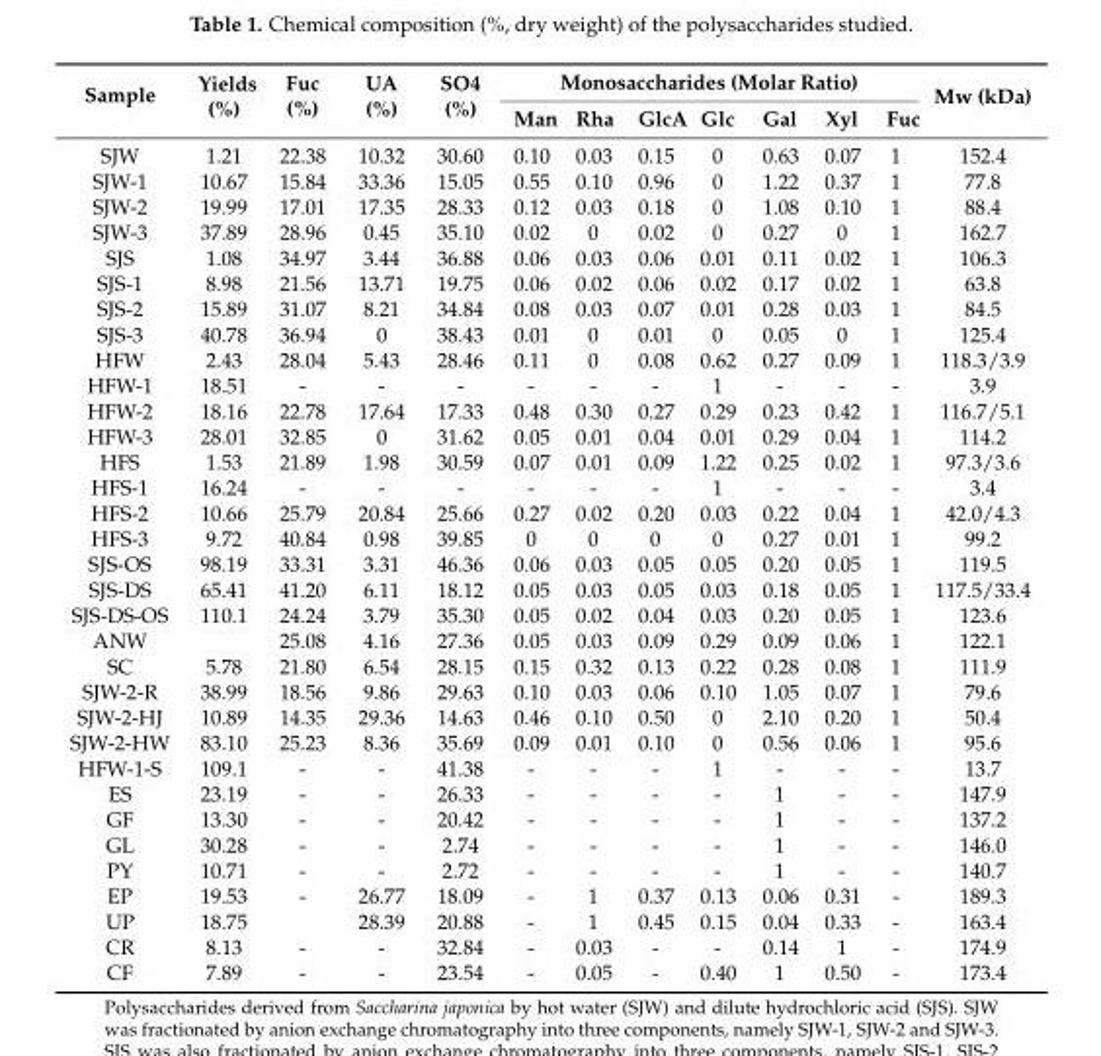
<table><thead><tr><td rowspan="2">Sample</td><td rowspan="2">Yields (%)</td><td rowspan="2">Fuc (%)</td><td rowspan="2">UA (%)</td><td rowspan="2">SO4 (%)</td><td colspan="7">Monosaccharides (Molar Ratio)</td><td rowspan="2">Mw (kDa)</td></tr><tr><td>Man</td><td>Rha</td><td>GlcA</td><td>Glc</td><td>Gal</td><td>Xyl</td><td>Fuc</td></tr></thead><tbody><tr><td>SJW</td><td>1.21</td><td>22.38</td><td>10.32</td><td>30.60</td><td>0.10</td><td>0.03</td><td>0.15</td><td>0</td><td>0.63</td><td>0.07</td><td>1</td><td>152.4</td></tr><tr><td>SJW-1</td><td>10.67</td><td>15.84</td><td>33.36</td><td>15.05</td><td>0.55</td><td>0.10</td><td>0.96</td><td>0</td><td>1.22</td><td>0.37</td><td>1</td><td>77.8</td></tr><tr><td>SJW-2</td><td>19.99</td><td>17.01</td><td>17.35</td><td>28.33</td><td>0.12</td><td>0.03</td><td>0.18</td><td>0</td><td>1.08</td><td>0.10</td><td>1</td><td>88.4</td></tr><tr><td>SJW-3</td><td>37.89</td><td>28.96</td><td>0.45</td><td>35.10</td><td>0.02</td><td>0</td><td>0.02</td><td>0</td><td>0.27</td><td>0</td><td>1</td><td>162.7</td></tr><tr><td>SJS</td><td>1.08</td><td>34.97</td><td>3.44</td><td>36.88</td><td>0.06</td><td>0.03</td><td>0.06</td><td>0.01</td><td>0.11</td><td>0.02</td><td>1</td><td>106.3</td></tr><tr><td>SJS-1</td><td>8.98</td><td>21.56</td><td>13.71</td><td>19.75</td><td>0.06</td><td>0.02</td><td>0.06</td><td>0.02</td><td>0.17</td><td>0.02</td><td>1</td><td>63.8</td></tr><tr><td>SJS-2</td><td>15.89</td><td>31.07</td><td>8.21</td><td>34.84</td><td>0.08</td><td>0.03</td><td>0.07</td><td>0.01</td><td>0.28</td><td>0.03</td><td>1</td><td>84.5</td></tr><tr><td>SJS-3</td><td>40.78</td><td>36.94</td><td>0</td><td>38.43</td><td>0.01</td><td>0</td><td>0.01</td><td>0</td><td>0.05</td><td>0</td><td>1</td><td>125.4</td></tr><tr><td>HFW</td><td>2.43</td><td>28.04</td><td>5.43</td><td>28.46</td><td>0.11</td><td>0</td><td>0.08</td><td>0.62</td><td>0.27</td><td>0.09</td><td>1</td><td>118.3/3.9</td></tr><tr><td>HFW-1</td><td>18.51</td><td>-</td><td>-</td><td>-</td><td>-</td><td>-</td><td>-</td><td>1</td><td>-</td><td>-</td><td>-</td><td>3.9</td></tr><tr><td>HFW-2</td><td>18.16</td><td>22.78</td><td>17.64</td><td>17.33</td><td>0.48</td><td>0.30</td><td>0.27</td><td>0.29</td><td>0.23</td><td>0.42</td><td>1</td><td>116.7/5.1</td></tr><tr><td>HFW-3</td><td>28.01</td><td>32.85</td><td>0</td><td>31.62</td><td>0.05</td><td>0.01</td><td>0.04</td><td>0.01</td><td>0.29</td><td>0.04</td><td>1</td><td>114.2</td></tr><tr><td>HFS</td><td>1.53</td><td>21.89</td><td>1.98</td><td>30.59</td><td>0.07</td><td>0.01</td><td>0.09</td><td>1.22</td><td>0.25</td><td>0.02</td><td>1</td><td>97.3/3.6</td></tr><tr><td>HFS-1</td><td>16.24</td><td>-</td><td>-</td><td>-</td><td>-</td><td>-</td><td>-</td><td>1</td><td>-</td><td>-</td><td>-</td><td>3.4</td></tr><tr><td>HFS-2</td><td>10.66</td><td>25.79</td><td>20.84</td><td>25.66</td><td>0.27</td><td>0.02</td><td>0.20</td><td>0.03</td><td>0.22</td><td>0.04</td><td>1</td><td>42.0/4.3</td></tr><tr><td>HFS-3</td><td>9.72</td><td>40.84</td><td>0.98</td><td>39.85</td><td>0</td><td>0</td><td>0</td><td>0</td><td>0.27</td><td>0.01</td><td>1</td><td>99.2</td></tr><tr><td>SJS-OS</td><td>98.19</td><td>33.31</td><td>3.31</td><td>46.36</td><td>0.06</td><td>0.03</td><td>0.05</td><td>0.05</td><td>0.20</td><td>0.05</td><td>1</td><td>119.5</td></tr><tr><td>SJS-DS</td><td>65.41</td><td>41.20</td><td>6.11</td><td>18.12</td><td>0.05</td><td>0.03</td><td>0.05</td><td>0.03</td><td>0.18</td><td>0.05</td><td>1</td><td>117.5/33.4</td></tr><tr><td>SJS-DS-OS</td><td>110.1</td><td>24.24</td><td>3.79</td><td>35.30</td><td>0.05</td><td>0.02</td><td>0.04</td><td>0.03</td><td>0.20</td><td>0.05</td><td>1</td><td>123.6</td></tr><tr><td>ANW</td><td></td><td>25.08</td><td>4.16</td><td>27.36</td><td>0.05</td><td>0.03</td><td>0.09</td><td>0.29</td><td>0.09</td><td>0.06</td><td>1</td><td>122.1</td></tr><tr><td>SC</td><td>5.78</td><td>21.80</td><td>6.54</td><td>28.15</td><td>0.15</td><td>0.32</td><td>0.13</td><td>0.22</td><td>0.28</td><td>0.08</td><td>1</td><td>111.9</td></tr><tr><td>SJW-2-R</td><td>38.99</td><td>18.56</td><td>9.86</td><td>29.63</td><td>0.10</td><td>0.03</td><td>0.06</td><td>0.10</td><td>1.05</td><td>0.07</td><td>1</td><td>79.6</td></tr><tr><td>SJW-2-HJ</td><td>10.89</td><td>14.35</td><td>29.36</td><td>14.63</td><td>0.46</td><td>0.10</td><td>0.50</td><td>0</td><td>2.10</td><td>0.20</td><td>1</td><td>50.4</td></tr><tr><td>SJW-2-HW</td><td>83.10</td><td>25.23</td><td>8.36</td><td>35.69</td><td>0.09</td><td>0.01</td><td>0.10</td><td>0</td><td>0.56</td><td>0.06</td><td>1</td><td>95.6</td></tr><tr><td>HFW-1-S</td><td>109.1</td><td>-</td><td>-</td><td>41.38</td><td>-</td><td>-</td><td>-</td><td>1</td><td>-</td><td>-</td><td>-</td><td>13.7</td></tr><tr><td>ES</td><td>23.19</td><td>-</td><td>-</td><td>26.33</td><td>-</td><td>-</td><td>-</td><td>-</td><td>1</td><td>-</td><td>-</td><td>147.9</td></tr><tr><td>GF</td><td>13.30</td><td>-</td><td>-</td><td>20.42</td><td>-</td><td>-</td><td>-</td><td>-</td><td>1</td><td>-</td><td>-</td><td>137.2</td></tr><tr><td>GL</td><td>30.28</td><td>-</td><td>-</td><td>2.74</td><td>-</td><td>-</td><td>-</td><td>-</td><td>1</td><td>-</td><td>-</td><td>146.0</td></tr><tr><td>PY</td><td>10.71</td><td>-</td><td>-</td><td>2.72</td><td>-</td><td>-</td><td>-</td><td>-</td><td>1</td><td>-</td><td>-</td><td>140.7</td></tr><tr><td>EP</td><td>19.53</td><td>-</td><td>26.77</td><td>18.09</td><td>-</td><td>1</td><td>0.37</td><td>0.13</td><td>0.06</td><td>0.31</td><td>-</td><td>189.3</td></tr><tr><td>UP</td><td>18.75</td><td></td><td>28.39</td><td>20.88</td><td>-</td><td>1</td><td>0.45</td><td>0.15</td><td>0.04</td><td>0.33</td><td>-</td><td>163.4</td></tr><tr><td>CR</td><td>8.13</td><td>-</td><td>-</td><td>32.84</td><td>-</td><td>0.03</td><td>-</td><td>-</td><td>0.14</td><td>1</td><td>-</td><td>174.9</td></tr><tr><td>CF</td><td>7.89</td><td>-</td><td>-</td><td>23.54</td><td>-</td><td>0.05</td><td>-</td><td>0.40</td><td>1</td><td>0.50</td><td>-</td><td>173.4</td></tr></tbody></table>